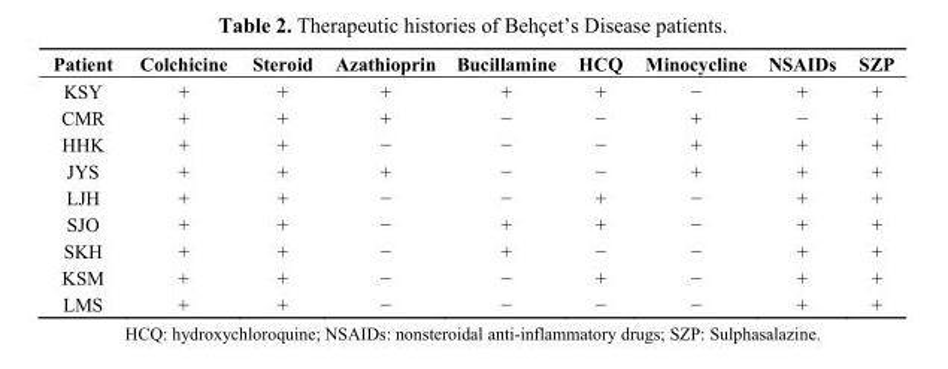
<table><thead><tr><td>Patient</td><td>Colchicine</td><td>Steroid</td><td>Azathioprin</td><td>Bucillamine</td><td>HCQ</td><td>Minocycline</td><td>NSAIDs</td><td>SZP</td></tr></thead><tbody><tr><td>KSY</td><td>+</td><td>+</td><td>+</td><td>+</td><td>+</td><td>−</td><td>+</td><td>+</td></tr><tr><td>CMR</td><td>+</td><td>+</td><td>+</td><td>−</td><td>−</td><td>+</td><td>−</td><td>+</td></tr><tr><td>HHK</td><td>+</td><td>+</td><td>−</td><td>−</td><td>−</td><td>+</td><td>+</td><td>+</td></tr><tr><td>JYS</td><td>+</td><td>+</td><td>+</td><td>−</td><td>−</td><td>+</td><td>+</td><td>+</td></tr><tr><td>LJH</td><td>+</td><td>+</td><td>−</td><td>−</td><td>+</td><td>−</td><td>+</td><td>+</td></tr><tr><td>SJO</td><td>+</td><td>+</td><td>−</td><td>+</td><td>+</td><td>−</td><td>+</td><td>+</td></tr><tr><td>SKH</td><td>+</td><td>+</td><td>−</td><td>+</td><td>−</td><td>−</td><td>+</td><td>+</td></tr><tr><td>KSM</td><td>+</td><td>+</td><td>−</td><td>−</td><td>+</td><td>−</td><td>+</td><td>+</td></tr><tr><td>LMS</td><td>+</td><td>+</td><td>−</td><td>−</td><td>−</td><td>−</td><td>+</td><td>+</td></tr></tbody></table>